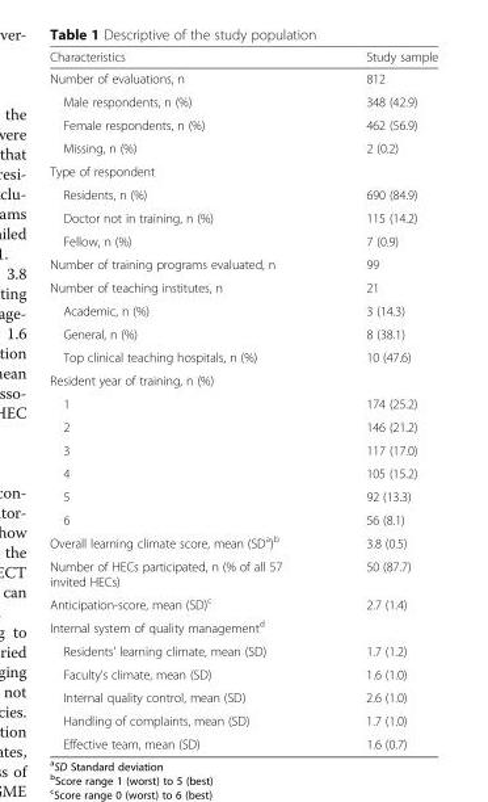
<table><thead><tr><td>Characteristics</td><td>Study sample</td></tr></thead><tbody><tr><td>Number of evaluations, n</td><td>812</td></tr><tr><td>Male respondents, n (%)</td><td>348 (42.9)</td></tr><tr><td>Female respondents, n (%)</td><td>462 (56.9)</td></tr><tr><td>Missing, n (%)</td><td>2 (0.2)</td></tr><tr><td colspan="2">Type of respondent</td></tr><tr><td>Residents, n (%)</td><td>690 (84.9)</td></tr><tr><td>Doctor not in training, n (%)</td><td>115 (14.2)</td></tr><tr><td>Fellow, n (%)</td><td>7 (0.9)</td></tr><tr><td>Number of training programs evaluated, n</td><td>99</td></tr><tr><td>Number of teaching institutes, n</td><td>21</td></tr><tr><td>Academic, n (%)</td><td>3 (14.3)</td></tr><tr><td>General, n (%)</td><td>8 (38.1)</td></tr><tr><td>Top clinical teaching hospitals, n (%)</td><td>10 (47.6)</td></tr><tr><td colspan="2">Resident year of training, n (%)</td></tr><tr><td>1</td><td>174 (25.2)</td></tr><tr><td>2</td><td>146 (21.2)</td></tr><tr><td>3</td><td>117 (17.0)</td></tr><tr><td>4</td><td>105 (15.2)</td></tr><tr><td>5</td><td>92 (13.3)</td></tr><tr><td>6</td><td>56 (8.1)</td></tr><tr><td>Overall learning climate score, mean (SD<sup>a</sup>)<sup>b</sup></td><td>3.8 (0.5)</td></tr><tr><td>Number of HECs participated, n (% of all 57 invited HECs)</td><td>50 (87.7)</td></tr><tr><td>Anticipation-score, mean (SD)<sup>c</sup></td><td>2.7 (1.4)</td></tr><tr><td colspan="2">Internal system of quality management<sup>d</sup></td></tr><tr><td>Residents’ learning climate, mean (SD)</td><td>1.7 (1.2)</td></tr><tr><td>Faculty’s climate, mean (SD)</td><td>1.6 (1.0)</td></tr><tr><td>Internal quality control, mean (SD)</td><td>2.6 (1.0)</td></tr><tr><td>Handling of complaints, mean (SD)</td><td>1.7 (1.0)</td></tr><tr><td>Effective team, mean (SD)</td><td>1.6 (0.7)</td></tr></tbody></table>